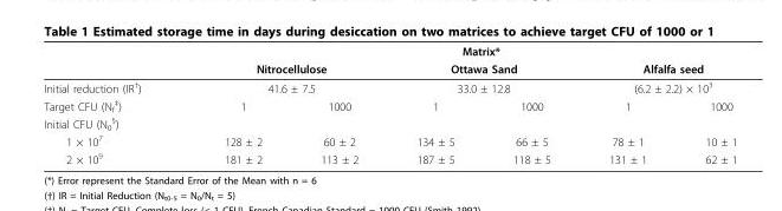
<table><thead><tr><td rowspan="4">Initial reduction (IR<sup>†</sup>) Target CFU (N<sub>f</sub> <sup>‡</sup>)</td><td colspan="6">Matrix*</td></tr><tr><td rowspan="2" colspan="2">Nitrocellulose 41.6 ± 7.5</td><td rowspan="2" colspan="2">Ottawa Sand 33.0 ± 12.8</td><td rowspan="2" colspan="2">Alfalfa seed (6.2 ± 2.2) × 10<sup>3</sup></td></tr><tr></tr><tr><td>1</td><td>1000</td><td>1</td><td>1000</td><td>1</td><td>1000</td></tr></thead><tbody><tr><td colspan="7">Initial CFU (N<sub>0</sub> <sup>§</sup>)</td></tr><tr><td>1 × 10<sup>7</sup></td><td>128 ± 2</td><td>60 ± 2</td><td>134 ± 5</td><td>66 ± 5</td><td>78 ± 1</td><td>10 ± 1</td></tr><tr><td>2 × 10<sup>9</sup></td><td>181 ± 2</td><td>113 ± 2</td><td>187 ± 5</td><td>118 ± 5</td><td>131 ± 1</td><td>62 ± 1</td></tr></tbody></table>